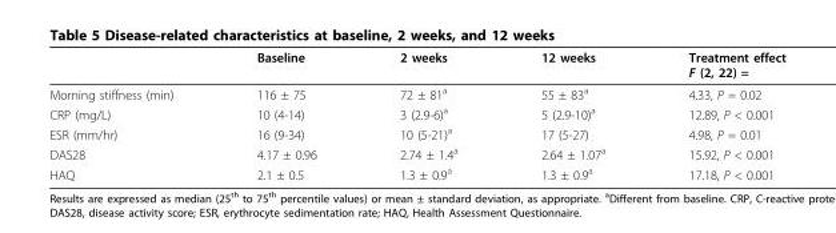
<table><thead><tr><td></td><td>Baseline</td><td>2 weeks</td><td>12 weeks</td><td>Treatment effect F (2, 22) =</td></tr></thead><tbody><tr><td>Morning stiffness (min)</td><td>116 ± 75</td><td>72 ± 81<sup>a</sup></td><td>55 ± 83<sup>a</sup></td><td>4.33, P = 0.02</td></tr><tr><td>CRP (mg/L)</td><td>10 (4-14)</td><td>3 (2.9-6)<sup>a</sup></td><td>5 (2.9-10)<sup>a</sup></td><td>12.89, P &lt; 0.001</td></tr><tr><td>ESR (mm/hr)</td><td>16 (9-34)</td><td>10 (5-21)<sup>a</sup></td><td>17 (5-27)</td><td>4.98, P = 0.01</td></tr><tr><td>DAS28</td><td>4.17 ± 0.96</td><td>2.74 ± 1.4<sup>a</sup></td><td>2.64 ± 1.07<sup>a</sup></td><td>15.92, P &lt; 0.001</td></tr><tr><td>HAQ</td><td>2.1 ± 0.5</td><td>1.3 ± 0.9<sup>a</sup></td><td>1.3 ± 0.9<sup>a</sup></td><td>17.18, P &lt; 0.001</td></tr></tbody></table>